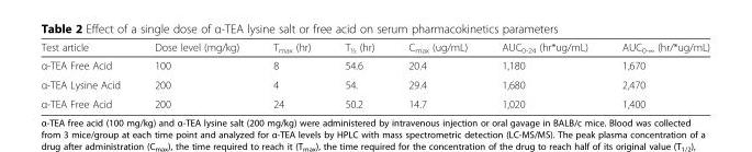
<table><thead><tr><td>Test article</td><td>Dose level (mg/kg)</td><td>T<sub>max</sub> (hr)</td><td>T<sub>½</sub> (hr)</td><td>C<sub>max</sub> (ug/mL)</td><td>AUC<sub>0-24</sub> (hr*ug/mL)</td><td>AUC<sub>0-∞</sub> (hr/*ug/mL)</td></tr></thead><tbody><tr><td>α-TEA Free Acid</td><td>100</td><td>8</td><td>54.6</td><td>20.4</td><td>1,180</td><td>1,670</td></tr><tr><td>α-TEA Lysine Acid</td><td>200</td><td>4</td><td>54.</td><td>29.4</td><td>1,680</td><td>2,470</td></tr><tr><td>α-TEA Free Acid</td><td>200</td><td>24</td><td>50.2</td><td>14.7</td><td>1,020</td><td>1,400</td></tr></tbody></table>